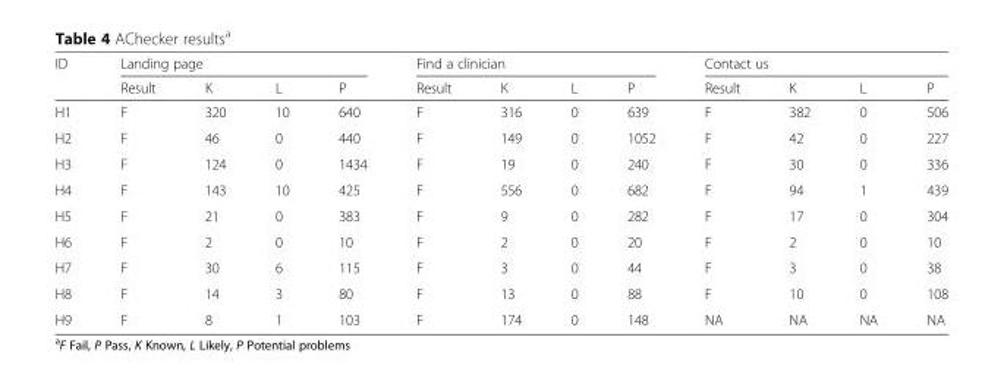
<table><thead><tr><td rowspan="2">ID</td><td colspan="4">Landing page</td><td colspan="4">Find a clinician</td><td colspan="4">Contact us</td></tr><tr><td>Result</td><td>K</td><td>L</td><td>P</td><td>Result</td><td>K</td><td>L</td><td>P</td><td>Result</td><td>K</td><td>L</td><td>P</td></tr></thead><tbody><tr><td>H1</td><td>F</td><td>320</td><td>10</td><td>640</td><td>F</td><td>316</td><td>0</td><td>639</td><td>F</td><td>382</td><td>0</td><td>506</td></tr><tr><td>H2</td><td>F</td><td>46</td><td>0</td><td>440</td><td>F</td><td>149</td><td>0</td><td>1052</td><td>F</td><td>42</td><td>0</td><td>227</td></tr><tr><td>H3</td><td>F</td><td>124</td><td>0</td><td>1434</td><td>F</td><td>19</td><td>0</td><td>240</td><td>F</td><td>30</td><td>0</td><td>336</td></tr><tr><td>H4</td><td>F</td><td>143</td><td>10</td><td>425</td><td>F</td><td>556</td><td>0</td><td>682</td><td>F</td><td>94</td><td>1</td><td>439</td></tr><tr><td>H5</td><td>F</td><td>21</td><td>0</td><td>383</td><td>F</td><td>9</td><td>0</td><td>282</td><td>F</td><td>17</td><td>0</td><td>304</td></tr><tr><td>H6</td><td>F</td><td>2</td><td>0</td><td>10</td><td>F</td><td>2</td><td>0</td><td>20</td><td>F</td><td>2</td><td>0</td><td>10</td></tr><tr><td>H7</td><td>F</td><td>30</td><td>6</td><td>115</td><td>F</td><td>3</td><td>0</td><td>44</td><td>F</td><td>3</td><td>0</td><td>38</td></tr><tr><td>H8</td><td>F</td><td>14</td><td>3</td><td>80</td><td>F</td><td>13</td><td>0</td><td>88</td><td>F</td><td>10</td><td>0</td><td>108</td></tr><tr><td>H9</td><td>F</td><td>8</td><td>1</td><td>103</td><td>F</td><td>174</td><td>0</td><td>148</td><td>NA</td><td>NA</td><td>NA</td><td>NA</td></tr></tbody></table>